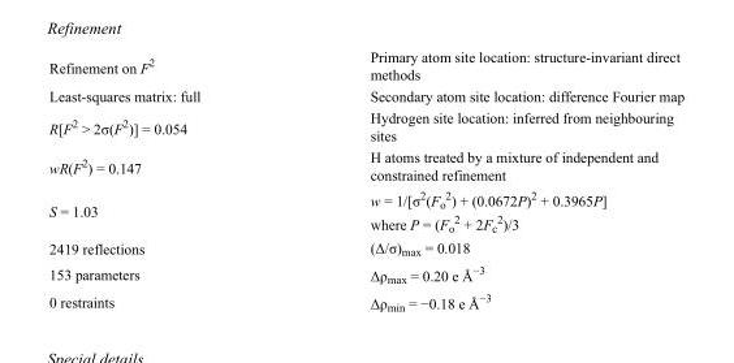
<table><tbody><tr><td>Refinement on F<sup>2</sup></td><td>Primary atom site location: structure-invariant direct methods</td></tr><tr><td>Least-squares matrix: full</td><td>Secondary atom site location: difference Fourier map</td></tr><tr><td>R[F<sup>2</sup> &gt; 2σ(F<sup>2</sup>)] = 0.054</td><td>Hydrogen site location: inferred from neighbouring sites</td></tr><tr><td>wR(F<sup>2</sup>) = 0.147</td><td>H atoms treated by a mixture of independent and constrained refinement</td></tr><tr><td>S = 1.03</td><td>w = 1/[σ<sup>2</sup>(F<sub>o</sub> <sup>2</sup>) + (0.0672P)<sup>2</sup> + 0.3965P] where P = (F<sub>o</sub> <sup>2</sup> + 2F<sub>c</sub> <sup>2</sup>)/3</td></tr><tr><td>2419 reflections</td><td>(Δ/σ)<sub>max</sub> = 0.018</td></tr><tr><td>153 parameters</td><td>Δρ<sub>max</sub> = 0.20 e Å<sup>−3</sup></td></tr><tr><td>0 restraints</td><td>Δρ<sub>min</sub> = −0.18 e Å<sup>−3</sup></td></tr></tbody></table>